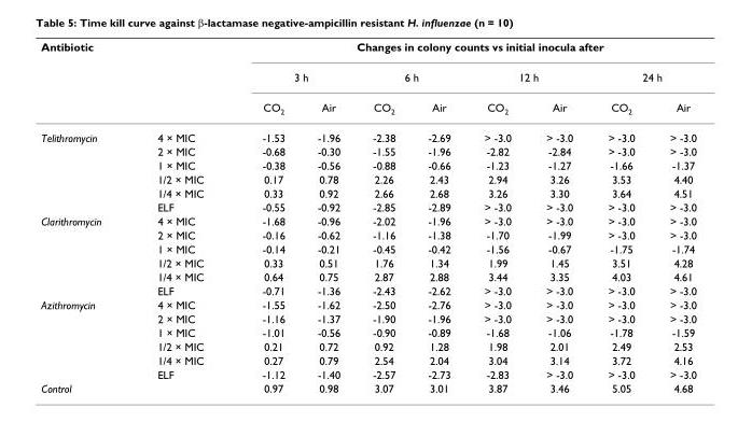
<table><thead><tr><td rowspan="3">Antibiotic</td><td rowspan="3"></td><td colspan="8">Changes in colony counts vs initial inocula after</td></tr><tr><td colspan="2">3 h</td><td colspan="2">6 h</td><td colspan="2">12 h</td><td colspan="2">24 h</td></tr><tr><td>CO<sub>2</sub></td><td>Air</td><td>CO<sub>2</sub></td><td>Air</td><td>CO<sub>2</sub></td><td>Air</td><td>CO<sub>2</sub></td><td>Air</td></tr></thead><tbody><tr><td rowspan="6">Telithromycin</td><td>4 × MIC</td><td>-1.53</td><td>-1.96</td><td>-2.38</td><td>-2.69</td><td>&gt; -3.0</td><td>&gt; -3.0</td><td>&gt; -3.0</td><td>&gt; -3.0</td></tr><tr><td>2 × MIC</td><td>-0.68</td><td>-0.30</td><td>-1.55</td><td>-1.96</td><td>-2.82</td><td>-2.84</td><td>&gt; -3.0</td><td>&gt; -3.0</td></tr><tr><td>1 × MIC</td><td>-0.38</td><td>-0.56</td><td>-0.88</td><td>-0.66</td><td>-1.23</td><td>-1.27</td><td>-1.66</td><td>-1.37</td></tr><tr><td>1/2 × MIC</td><td>0.17</td><td>0.78</td><td>2.26</td><td>2.43</td><td>2.94</td><td>3.26</td><td>3.53</td><td>4.40</td></tr><tr><td>1/4 × MIC</td><td>0.33</td><td>0.92</td><td>2.66</td><td>2.68</td><td>3.26</td><td>3.30</td><td>3.64</td><td>4.51</td></tr><tr><td>ELF</td><td>-0.55</td><td>-0.92</td><td>-2.85</td><td>-2.89</td><td>&gt; -3.0</td><td>&gt; -3.0</td><td>&gt; -3.0</td><td>&gt; -3.0</td></tr><tr><td rowspan="6">Clarithromycin</td><td>4 × MIC</td><td>-1.68</td><td>-0.96</td><td>-2.02</td><td>-1.96</td><td>&gt; -3.0</td><td>&gt; -3.0</td><td>&gt; -3.0</td><td>&gt; -3.0</td></tr><tr><td>2 × MIC</td><td>-0.16</td><td>-0.62</td><td>-1.16</td><td>-1.38</td><td>-1.70</td><td>-1.99</td><td>&gt; -3.0</td><td>&gt; -3.0</td></tr><tr><td>1 × MIC</td><td>-0.14</td><td>-0.21</td><td>-0.45</td><td>-0.42</td><td>-1.56</td><td>-0.67</td><td>-1.75</td><td>-1.74</td></tr><tr><td>1/2 × MIC</td><td>0.33</td><td>0.51</td><td>1.76</td><td>1.34</td><td>1.99</td><td>1.45</td><td>3.51</td><td>4.28</td></tr><tr><td>1/4 × MIC</td><td>0.64</td><td>0.75</td><td>2.87</td><td>2.88</td><td>3.44</td><td>3.35</td><td>4.03</td><td>4.61</td></tr><tr><td>ELF</td><td>-0.71</td><td>-1.36</td><td>-2.43</td><td>-2.62</td><td>&gt; -3.0</td><td>&gt; -3.0</td><td>&gt; -3.0</td><td>&gt; -3.0</td></tr><tr><td rowspan="6">Azithromycin</td><td>4 × MIC</td><td>-1.55</td><td>-1.62</td><td>-2.50</td><td>-2.76</td><td>&gt; -3.0</td><td>&gt; -3.0</td><td>&gt; -3.0</td><td>&gt; -3.0</td></tr><tr><td>2 × MIC</td><td>-1.16</td><td>-1.37</td><td>-1.90</td><td>-1.96</td><td>&gt; -3.0</td><td>&gt; -3.0</td><td>&gt; -3.0</td><td>&gt; -3.0</td></tr><tr><td>1 × MIC</td><td>-1.01</td><td>-0.56</td><td>-0.90</td><td>-0.89</td><td>-1.68</td><td>-1.06</td><td>-1.78</td><td>-1.59</td></tr><tr><td>1/2 × MIC</td><td>0.21</td><td>0.72</td><td>0.92</td><td>1.28</td><td>1.98</td><td>2.01</td><td>2.49</td><td>2.53</td></tr><tr><td>1/4 × MIC</td><td>0.27</td><td>0.79</td><td>2.54</td><td>2.04</td><td>3.04</td><td>3.14</td><td>3.72</td><td>4.16</td></tr><tr><td>ELF</td><td>-1.12</td><td>-1.40</td><td>-2.57</td><td>-2.73</td><td>-2.83</td><td>&gt; -3.0</td><td>&gt; -3.0</td><td>&gt; -3.0</td></tr><tr><td>Control</td><td></td><td>0.97</td><td>0.98</td><td>3.07</td><td>3.01</td><td>3.87</td><td>3.46</td><td>5.05</td><td>4.68</td></tr></tbody></table>